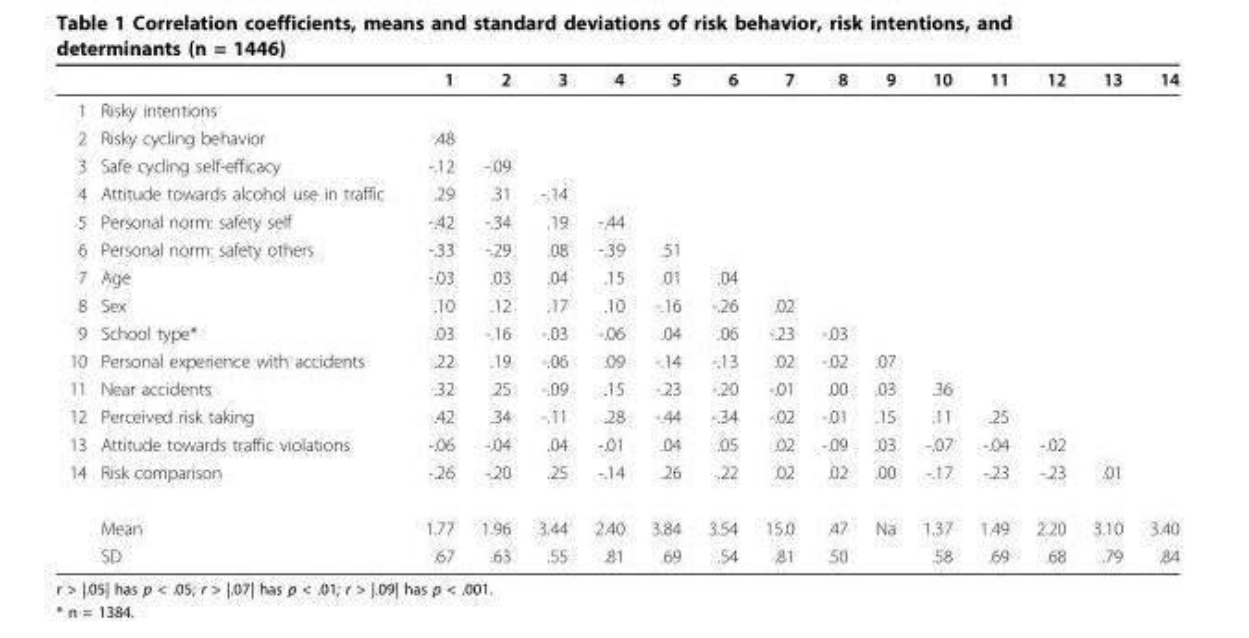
<table><thead><tr><td></td><td></td><td>1</td><td>2</td><td>3</td><td>4</td><td>5</td><td>6</td><td>7</td><td>8</td><td>9</td><td>10</td><td>11</td><td>12</td><td>13</td><td>14</td></tr></thead><tbody><tr><td>1</td><td>Risky intentions</td><td></td><td></td><td></td><td></td><td></td><td></td><td></td><td></td><td></td><td></td><td></td><td></td><td></td><td></td></tr><tr><td>2</td><td>Risky cycling behavior</td><td>.48</td><td></td><td></td><td></td><td></td><td></td><td></td><td></td><td></td><td></td><td></td><td></td><td></td><td></td></tr><tr><td>3</td><td>Safe cycling self-efficacy</td><td>-.12</td><td>-.09</td><td></td><td></td><td></td><td></td><td></td><td></td><td></td><td></td><td></td><td></td><td></td><td></td></tr><tr><td>4</td><td>Attitude towards alcohol use in traffic</td><td>.29</td><td>.31</td><td>-.14</td><td></td><td></td><td></td><td></td><td></td><td></td><td></td><td></td><td></td><td></td><td></td></tr><tr><td>5</td><td>Personal norm: safety self</td><td>-.42</td><td>-.34</td><td>.19</td><td>-.44</td><td></td><td></td><td></td><td></td><td></td><td></td><td></td><td></td><td></td><td></td></tr><tr><td>6</td><td>Personal norm: safety others</td><td>-.33</td><td>-.29</td><td>.08</td><td>-.39</td><td>.51</td><td></td><td></td><td></td><td></td><td></td><td></td><td></td><td></td><td></td></tr><tr><td>7</td><td>Age</td><td>-.03</td><td>.03</td><td>.04</td><td>.15</td><td>.01</td><td>.04</td><td></td><td></td><td></td><td></td><td></td><td></td><td></td><td></td></tr><tr><td>8</td><td>Sex</td><td>.10</td><td>.12</td><td>.17</td><td>.10</td><td>-.16</td><td>-.26</td><td>.02</td><td></td><td></td><td></td><td></td><td></td><td></td><td></td></tr><tr><td>9</td><td>School type*</td><td>.03</td><td>-.16</td><td>-.03</td><td>-.06</td><td>.04</td><td>.06</td><td>-.23</td><td>-.03</td><td></td><td></td><td></td><td></td><td></td><td></td></tr><tr><td>10</td><td>Personal experience with accidents</td><td>.22</td><td>.19</td><td>-.06</td><td>.09</td><td>-.14</td><td>-.13</td><td>.02</td><td>-.02</td><td>.07</td><td></td><td></td><td></td><td></td><td></td></tr><tr><td>11</td><td>Near accidents</td><td>.32</td><td>.25</td><td>-.09</td><td>.15</td><td>-.23</td><td>-.20</td><td>-.01</td><td>.00</td><td>.03</td><td>.36</td><td></td><td></td><td></td><td></td></tr><tr><td>12</td><td>Perceived risk taking</td><td>.42</td><td>.34</td><td>-.11</td><td>.28</td><td>-.44</td><td>-.34</td><td>-.02</td><td>-.01</td><td>.15</td><td>.11</td><td>.25</td><td></td><td></td><td></td></tr><tr><td>13</td><td>Attitude towards traffic violations</td><td>-.06</td><td>-.04</td><td>.04</td><td>-.01</td><td>.04</td><td>.05</td><td>.02</td><td>-.09</td><td>.03</td><td>-.07</td><td>-.04</td><td>-.02</td><td></td><td></td></tr><tr><td rowspan="3">14</td><td>Risk comparison</td><td>-.26</td><td>-.20</td><td>.25</td><td>-.14</td><td>.26</td><td>.22</td><td>.02</td><td>.02</td><td>.00</td><td>-.17</td><td>-.23</td><td>-.23</td><td>.01</td><td></td></tr><tr><td>Mean</td><td>1.77</td><td>1.96</td><td>3.44</td><td>2.40</td><td>3.84</td><td>3.54</td><td>15.0</td><td>.47</td><td>Na</td><td>1.37</td><td>1.49</td><td>2.20</td><td>3.10</td><td>3.40</td></tr><tr><td>SD</td><td>.67</td><td>.63</td><td>.55</td><td>.81</td><td>.69</td><td>.54</td><td>.81</td><td>.50</td><td></td><td>.58</td><td>.69</td><td>.68</td><td>.79</td><td>.84</td></tr></tbody></table>